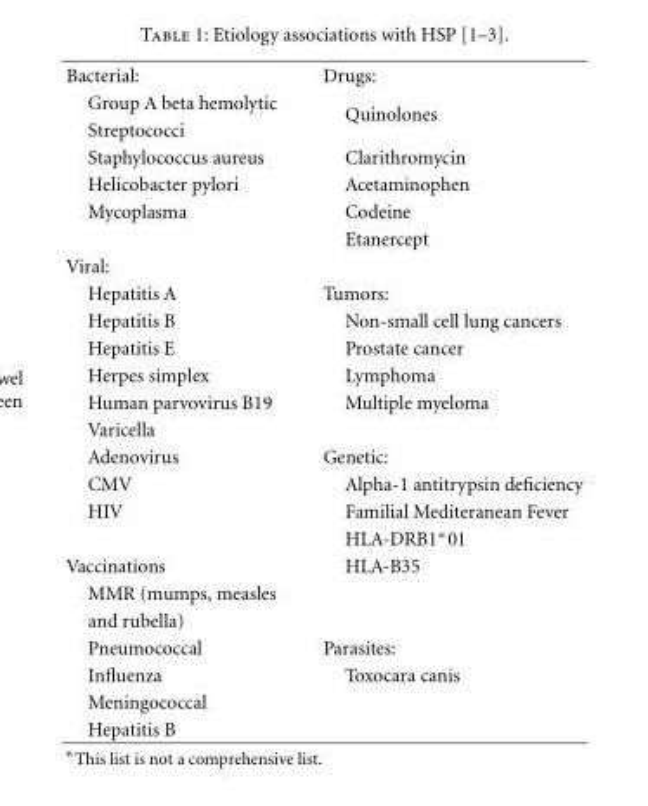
<table><tbody><tr><td>Bacterial:</td><td>Drugs:</td></tr><tr><td>Group A beta hemolytic</td><td rowspan="2">Quinolones</td></tr><tr><td>Streptococci</td></tr><tr><td>Staphylococcus aureus</td><td>Clarithromycin</td></tr><tr><td>Helicobacter pylori</td><td>Acetaminophen</td></tr><tr><td rowspan="2">Mycoplasma</td><td>Codeine</td></tr><tr><td>Etanercept</td></tr><tr><td colspan="2">Viral:</td></tr><tr><td>Hepatitis A</td><td>Tumors:</td></tr><tr><td>Hepatitis B</td><td>Non-small cell lung cancers</td></tr><tr><td>Hepatitis E</td><td>Prostate cancer</td></tr><tr><td>Herpes simplex</td><td>Lymphoma</td></tr><tr><td>Human parvovirus B19</td><td>Multiple myeloma</td></tr><tr><td colspan="2">Varicella</td></tr><tr><td>Adenovirus</td><td>Genetic:</td></tr><tr><td>CMV</td><td>Alpha-1 antitrypsin deficiency</td></tr><tr><td rowspan="2">HIV</td><td>Familial Mediteranean Fever</td></tr><tr><td>HLA-DRB1∗01</td></tr><tr><td>Vaccinations</td><td>HLA-B35</td></tr><tr><td colspan="2">MMR (mumps, measles</td></tr><tr><td colspan="2">and rubella)</td></tr><tr><td>Pneumococcal</td><td>Parasites:</td></tr><tr><td>Influenza</td><td>Toxocara canis</td></tr><tr><td colspan="2">Meningococcal</td></tr><tr><td>Hepatitis B</td><td></td></tr></tbody></table>